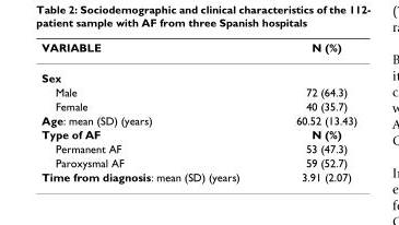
<table><thead><tr><td>VARIABLE</td><td>N (%)</td></tr></thead><tbody><tr><td colspan="2">Sex</td></tr><tr><td>Male</td><td>72 (64.3)</td></tr><tr><td>Female</td><td>40 (35.7)</td></tr><tr><td>Age: mean (SD) (years)</td><td>60.52 (13.43)</td></tr><tr><td>Type of AF</td><td>N (%)</td></tr><tr><td>Permanent AF</td><td>53 (47.3)</td></tr><tr><td>Paroxysmal AF</td><td>59 (52.7)</td></tr><tr><td>Time from diagnosis: mean (SD) (years)</td><td>3.91 (2.07)</td></tr></tbody></table>